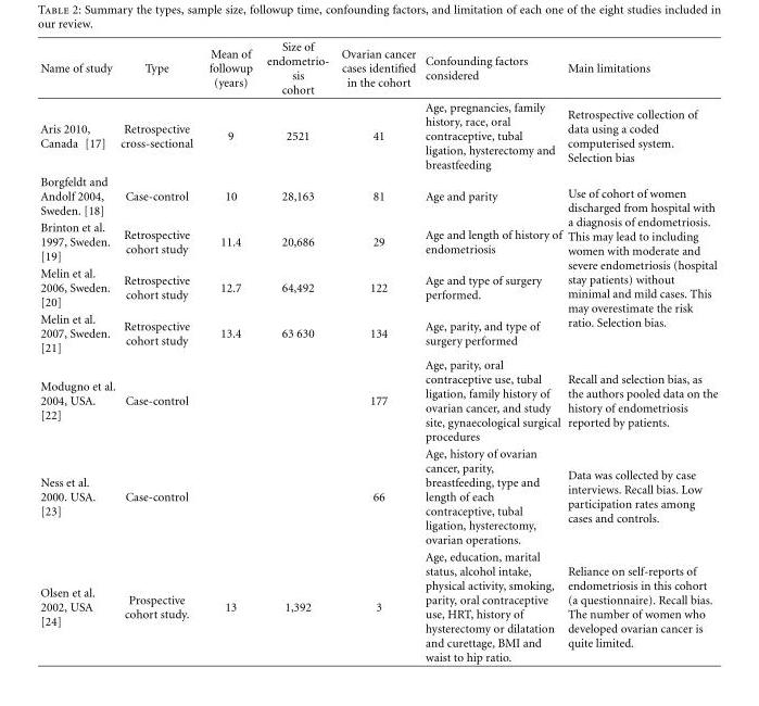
<table><thead><tr><td>Name of study</td><td>Type</td><td>Mean of followup (years)</td><td>Size of endometrio- sis cohort</td><td>Ovarian cancer cases identified in the cohort</td><td>Confounding factors considered</td><td>Main limitations</td></tr></thead><tbody><tr><td>Aris 2010, Canada [17]</td><td>Retrospective cross-sectional</td><td>9</td><td>2521</td><td>41</td><td>Age, pregnancies, family history, race, oral contraceptive, tubal ligation, hysterectomy and breastfeeding</td><td>Retrospective collection of data using a coded computerised system. Selection bias</td></tr><tr><td>Borgfeldt and Andolf 2004, Sweden. [18]</td><td>Case-control</td><td>10</td><td>28,163</td><td>81</td><td>Age and parity</td><td rowspan="4">Use of cohort of women discharged from hospital with a diagnosis of endometriosis. This may lead to including women with moderate and severe endometriosis (hospital stay patients) without minimal and mild cases. This may overestimate the risk ratio. Selection bias.</td></tr><tr><td>Brinton et al. 1997, Sweden. [19]</td><td>Retrospective cohort study</td><td>11.4</td><td>20,686</td><td>29</td><td>Age and length of history of endometriosis</td></tr><tr><td>Melin et al. 2006, Sweden. [20]</td><td>Retrospective cohort study</td><td>12.7</td><td>64,492</td><td>122</td><td>Age and type of surgery performed.</td></tr><tr><td>Melin et al. 2007, Sweden. [21]</td><td>Retrospective cohort study</td><td>13.4</td><td>63 630</td><td>134</td><td>Age, parity, and type of surgery performed</td></tr><tr><td>Modugno et al. 2004, USA. [22]</td><td>Case-control</td><td></td><td></td><td>177</td><td>Age, parity, oral contraceptive use, tubal ligation, family history of ovarian cancer, and study site, gynaecological surgical procedures</td><td>Recall and selection bias, as the authors pooled data on the history of endometriosis reported by patients.</td></tr><tr><td>Ness et al. 2000. USA. [23]</td><td>Case-control</td><td></td><td></td><td>66</td><td>Age, history of ovarian cancer, parity, breastfeeding, type and length of each contraceptive, tubal ligation, hysterectomy, ovarian operations.</td><td>Data was collected by case interviews. Recall bias. Low participation rates among cases and controls.</td></tr><tr><td>Olsen et al. 2002, USA [24]</td><td>Prospective cohort study.</td><td>13</td><td>1,392</td><td>3</td><td>Age, education, marital status, alcohol intake, physical activity, smoking, parity, oral contraceptive use, HRT, history of hysterectomy or dilatation and curettage, BMI and waist to hip ratio.</td><td>Reliance on self-reports of endometriosis in this cohort (a questionnaire). Recall bias. The number of women who developed ovarian cancer is quite limited.</td></tr></tbody></table>